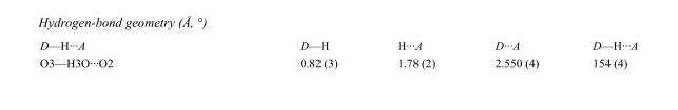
<table><tbody><tr><td>D—H···A</td><td>D—H</td><td>H···A</td><td>D···A</td><td>D—H···A</td></tr><tr><td>O3—H3O···O2</td><td>0.82 (3)</td><td>1.78 (2)</td><td>2.550 (4)</td><td>154 (4)</td></tr></tbody></table>